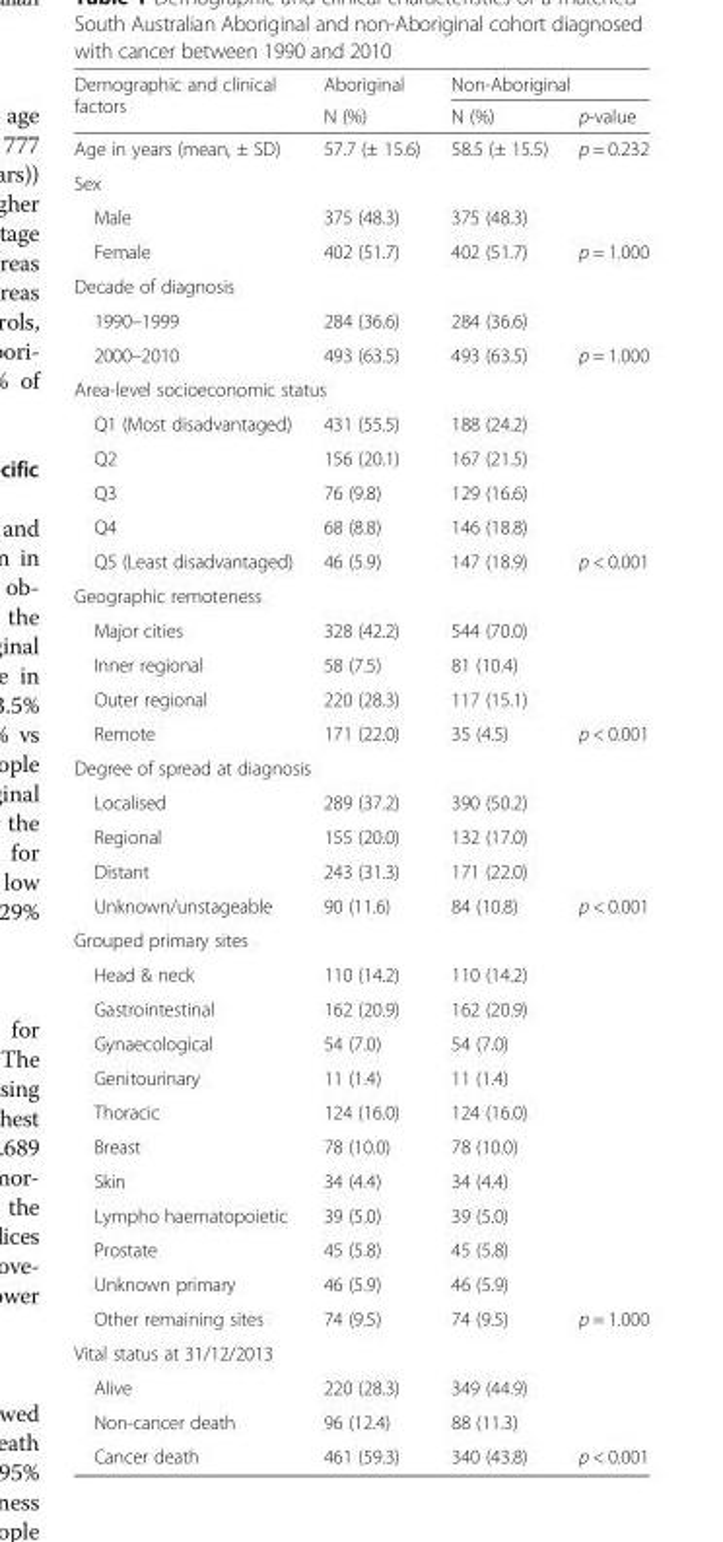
<table><thead><tr><td rowspan="2">Demographic and clinical factors</td><td rowspan="2">Aboriginal N (%)</td><td colspan="2">Non-Aboriginal</td></tr><tr><td>N (%)</td><td>p-value</td></tr></thead><tbody><tr><td>Age in years (mean, ± SD)</td><td>57.7 (± 15.6)</td><td>58.5 (± 15.5)</td><td>p = 0.232</td></tr><tr><td colspan="4">Sex</td></tr><tr><td>Male</td><td>375 (48.3)</td><td>375 (48.3)</td><td></td></tr><tr><td>Female</td><td>402 (51.7)</td><td>402 (51.7)</td><td>p = 1.000</td></tr><tr><td colspan="4">Decade of diagnosis</td></tr><tr><td>1990–1999</td><td>284 (36.6)</td><td>284 (36.6)</td><td></td></tr><tr><td>2000–2010</td><td>493 (63.5)</td><td>493 (63.5)</td><td>p = 1.000</td></tr><tr><td colspan="4">Area-level socioeconomic status</td></tr><tr><td>Q1 (Most disadvantaged)</td><td>431 (55.5)</td><td>188 (24.2)</td><td></td></tr><tr><td>Q2</td><td>156 (20.1)</td><td>167 (21.5)</td><td></td></tr><tr><td>Q3</td><td>76 (9.8)</td><td>129 (16.6)</td><td></td></tr><tr><td>Q4</td><td>68 (8.8)</td><td>146 (18.8)</td><td></td></tr><tr><td>Q5 (Least disadvantaged)</td><td>46 (5.9)</td><td>147 (18.9)</td><td>p &lt; 0.001</td></tr><tr><td colspan="4">Geographic remoteness</td></tr><tr><td>Major cities</td><td>328 (42.2)</td><td>544 (70.0)</td><td></td></tr><tr><td>Inner regional</td><td>58 (7.5)</td><td>81 (10.4)</td><td></td></tr><tr><td>Outer regional</td><td>220 (28.3)</td><td>117 (15.1)</td><td></td></tr><tr><td>Remote</td><td>171 (22.0)</td><td>35 (4.5)</td><td>p &lt; 0.001</td></tr><tr><td colspan="4">Degree of spread at diagnosis</td></tr><tr><td>Localised</td><td>289 (37.2)</td><td>390 (50.2)</td><td></td></tr><tr><td>Regional</td><td>155 (20.0)</td><td>132 (17.0)</td><td></td></tr><tr><td>Distant</td><td>243 (31.3)</td><td>171 (22.0)</td><td></td></tr><tr><td>Unknown/unstageable</td><td>90 (11.6)</td><td>84 (10.8)</td><td>p &lt; 0.001</td></tr><tr><td colspan="4">Grouped primary sites</td></tr><tr><td>Head &amp; neck</td><td>110 (14.2)</td><td>110 (14.2)</td><td></td></tr><tr><td>Gastrointestinal</td><td>162 (20.9)</td><td>162 (20.9)</td><td></td></tr><tr><td>Gynaecological</td><td>54 (7.0)</td><td>54 (7.0)</td><td></td></tr><tr><td>Genitourinary</td><td>11 (1.4)</td><td>11 (1.4)</td><td></td></tr><tr><td>Thoracic</td><td>124 (16.0)</td><td>124 (16.0)</td><td></td></tr><tr><td>Breast</td><td>78 (10.0)</td><td>78 (10.0)</td><td></td></tr><tr><td>Skin</td><td>34 (4.4)</td><td>34 (4.4)</td><td></td></tr><tr><td>Lympho haematopoietic</td><td>39 (5.0)</td><td>39 (5.0)</td><td></td></tr><tr><td>Prostate</td><td>45 (5.8)</td><td>45 (5.8)</td><td></td></tr><tr><td>Unknown primary</td><td>46 (5.9)</td><td>46 (5.9)</td><td></td></tr><tr><td>Other remaining sites</td><td>74 (9.5)</td><td>74 (9.5)</td><td>p = 1.000</td></tr><tr><td colspan="4">Vital status at 31/12/2013</td></tr><tr><td>Alive</td><td>220 (28.3)</td><td>349 (44.9)</td><td></td></tr><tr><td>Non-cancer death</td><td>96 (12.4)</td><td>88 (11.3)</td><td></td></tr><tr><td>Cancer death</td><td>461 (59.3)</td><td>340 (43.8)</td><td>p &lt; 0.001</td></tr></tbody></table>